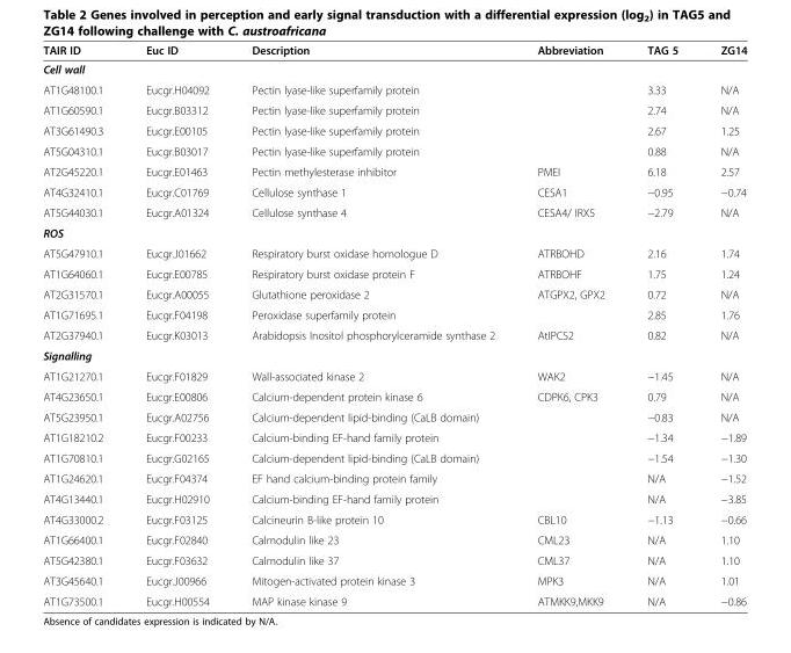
<table><thead><tr><td>TAIR ID</td><td>Euc ID</td><td>Description</td><td>Abbreviation</td><td>TAG 5</td><td>ZG14</td></tr></thead><tbody><tr><td colspan="6">Cell wall</td></tr><tr><td>AT1G48100.1</td><td>Eucgr.H04092</td><td>Pectin lyase-like superfamily protein</td><td></td><td>3.33</td><td>N/A</td></tr><tr><td>AT1G60590.1</td><td>Eucgr.B03312</td><td>Pectin lyase-like superfamily protein</td><td></td><td>2.74</td><td>N/A</td></tr><tr><td>AT3G61490.3</td><td>Eucgr.E00105</td><td>Pectin lyase-like superfamily protein</td><td></td><td>2.67</td><td>1.25</td></tr><tr><td>AT5G04310.1</td><td>Eucgr.B03017</td><td>Pectin lyase-like superfamily protein</td><td></td><td>0.88</td><td>N/A</td></tr><tr><td>AT2G45220.1</td><td>Eucgr.E01463</td><td>Pectin methylesterase inhibitor</td><td>PMEI</td><td>6.18</td><td>2.57</td></tr><tr><td>AT4G32410.1</td><td>Eucgr.C01769</td><td>Cellulose synthase 1</td><td>CESA1</td><td>−0.95</td><td>−0.74</td></tr><tr><td>AT5G44030.1</td><td>Eucgr.A01324</td><td>Cellulose synthase 4</td><td>CESA4/ IRX5</td><td>−2.79</td><td>N/A</td></tr><tr><td colspan="6">ROS</td></tr><tr><td>AT5G47910.1</td><td>Eucgr.J01662</td><td>Respiratory burst oxidase homologue D</td><td>ATRBOHD</td><td>2.16</td><td>1.74</td></tr><tr><td>AT1G64060.1</td><td>Eucgr.E00785</td><td>Respiratory burst oxidase protein F</td><td>ATRBOHF</td><td>1.75</td><td>1.24</td></tr><tr><td>AT2G31570.1</td><td>Eucgr.A00055</td><td>Glutathione peroxidase 2</td><td>ATGPX2, GPX2</td><td>0.72</td><td>N/A</td></tr><tr><td>AT1G71695.1</td><td>Eucgr.F04198</td><td>Peroxidase superfamily protein</td><td></td><td>2.85</td><td>1.76</td></tr><tr><td>AT2G37940.1</td><td>Eucgr.K03013</td><td>Arabidopsis Inositol phosphorylceramide synthase 2</td><td>AtIPCS2</td><td>0.82</td><td>N/A</td></tr><tr><td colspan="6">Signalling</td></tr><tr><td>AT1G21270.1</td><td>Eucgr.F01829</td><td>Wall-associated kinase 2</td><td>WAK2</td><td>−1.45</td><td>N/A</td></tr><tr><td>AT4G23650.1</td><td>Eucgr.E00806</td><td>Calcium-dependent protein kinase 6</td><td>CDPK6, CPK3</td><td>0.79</td><td>N/A</td></tr><tr><td>AT5G23950.1</td><td>Eucgr.A02756</td><td>Calcium-dependent lipid-binding (CaLB domain)</td><td></td><td>−0.83</td><td>N/A</td></tr><tr><td>AT1G18210.2</td><td>Eucgr.F00233</td><td>Calcium-binding EF-hand family protein</td><td></td><td>−1.34</td><td>−1.89</td></tr><tr><td>AT1G70810.1</td><td>Eucgr.G02165</td><td>Calcium-dependent lipid-binding (CaLB domain)</td><td></td><td>−1.54</td><td>−1.30</td></tr><tr><td>AT1G24620.1</td><td>Eucgr.F04374</td><td>EF hand calcium-binding protein family</td><td></td><td>N/A</td><td>−1.52</td></tr><tr><td>AT4G13440.1</td><td>Eucgr.H02910</td><td>Calcium-binding EF-hand family protein</td><td></td><td>N/A</td><td>−3.85</td></tr><tr><td>AT4G33000.2</td><td>Eucgr.F03125</td><td>Calcineurin B-like protein 10</td><td>CBL10</td><td>−1.13</td><td>−0.66</td></tr><tr><td>AT1G66400.1</td><td>Eucgr.F02840</td><td>Calmodulin like 23</td><td>CML23</td><td>N/A</td><td>1.10</td></tr><tr><td>AT5G42380.1</td><td>Eucgr.F03632</td><td>Calmodulin like 37</td><td>CML37</td><td>N/A</td><td>1.10</td></tr><tr><td>AT3G45640.1</td><td>Eucgr.J00966</td><td>Mitogen-activated protein kinase 3</td><td>MPK3</td><td>N/A</td><td>1.01</td></tr><tr><td>AT1G73500.1</td><td>Eucgr.H00554</td><td>MAP kinase kinase 9</td><td>ATMKK9,MKK9</td><td>N/A</td><td>−0.86</td></tr></tbody></table>